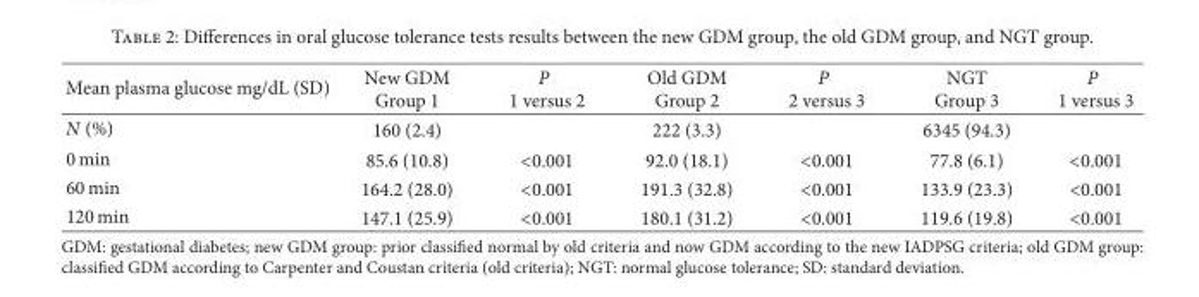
<table><thead><tr><td>Mean plasma glucose mg/dL (SD)</td><td>New GDM Group 1</td><td>P 1 versus 2</td><td>Old GDM Group 2</td><td>P 2 versus 3</td><td>NGT Group 3</td><td>P 1 versus 3</td></tr></thead><tbody><tr><td>N (%)</td><td>160 (2.4)</td><td></td><td>222 (3.3)</td><td></td><td>6345 (94.3)</td><td></td></tr><tr><td>0 min</td><td>85.6 (10.8)</td><td>&lt;0.001</td><td>92.0 (18.1)</td><td>&lt;0.001</td><td>77.8 (6.1)</td><td>&lt;0.001</td></tr><tr><td>60 min</td><td>164.2 (28.0)</td><td>&lt;0.001</td><td>191.3 (32.8)</td><td>&lt;0.001</td><td>133.9 (23.3)</td><td>&lt;0.001</td></tr><tr><td>120 min</td><td>147.1 (25.9)</td><td>&lt;0.001</td><td>180.1 (31.2)</td><td>&lt;0.001</td><td>119.6 (19.8)</td><td>&lt;0.001</td></tr></tbody></table>